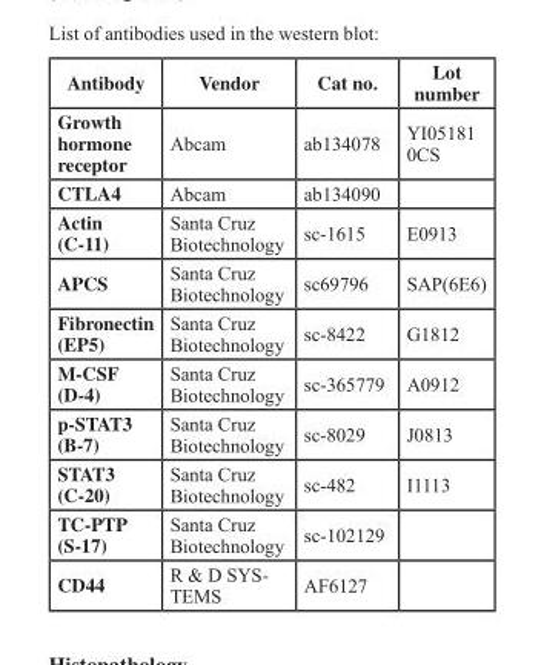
<table><thead><tr><td>Antibody</td><td>Vendor</td><td>Cat no.</td><td>Lot number</td></tr></thead><tbody><tr><td>Growth hormone receptor</td><td>Abcam</td><td>ab134078</td><td>YI05181 0CS</td></tr><tr><td>CTLA4</td><td>Abcam</td><td>ab134090</td><td></td></tr><tr><td>Actin (C-11)</td><td>Santa Cruz Biotechnology</td><td>sc-1615</td><td>E0913</td></tr><tr><td>APCS</td><td>Santa Cruz Biotechnology</td><td>sc69796</td><td>SAP(6E6)</td></tr><tr><td>Fibronectin (EP5)</td><td>Santa Cruz Biotechnology</td><td>sc-8422</td><td>G1812</td></tr><tr><td>M-CSF (D-4)</td><td>Santa Cruz Biotechnology</td><td>sc-365779</td><td>A0912</td></tr><tr><td>p-STAT3 (B-7)</td><td>Santa Cruz Biotechnology</td><td>sc-8029</td><td>J0813</td></tr><tr><td>STAT3 (C-20)</td><td>Santa Cruz Biotechnology</td><td>sc-482</td><td>I1113</td></tr><tr><td>TC-PTP (S-17)</td><td>Santa Cruz Biotechnology</td><td>sc-102129</td><td></td></tr><tr><td>CD44</td><td>R &amp; D SYS- TEMS</td><td>AF6127</td><td></td></tr></tbody></table>